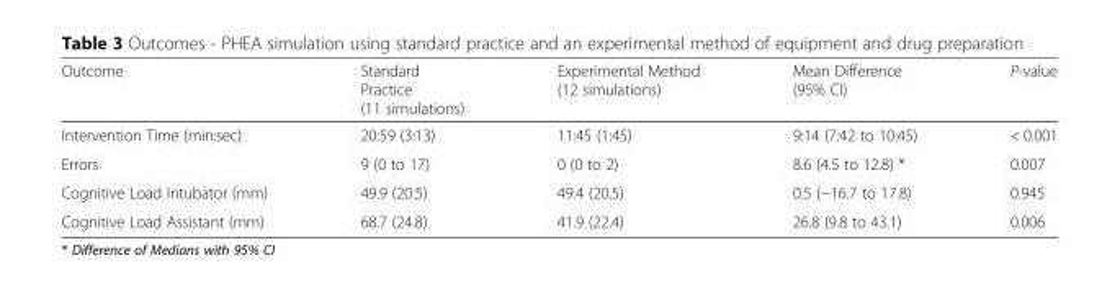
<table><thead><tr><td>Outcome</td><td>Standard Practice (11 simulations)</td><td>Experimental Method (12 simulations)</td><td>Mean Difference (95% CI)</td><td>P-value</td></tr></thead><tbody><tr><td>Intervention Time (min:sec)</td><td>20:59 (3:13)</td><td>11:45 (1:45)</td><td>9:14 (7:42 to 10:45)</td><td>&lt; 0.001</td></tr><tr><td>Errors</td><td>9 (0 to 17)</td><td>0 (0 to 2)</td><td>8.6 (4.5 to 12.8) *</td><td>0.007</td></tr><tr><td>Cognitive Load Intubator (mm)</td><td>49.9 (20.5)</td><td>49.4 (20.5)</td><td>0.5 (−16.7 to 17.8)</td><td>0.945</td></tr><tr><td>Cognitive Load Assistant (mm)</td><td>68.7 (24.8)</td><td>41.9 (22.4)</td><td>26.8 (9.8 to 43.1)</td><td>0.006</td></tr></tbody></table>